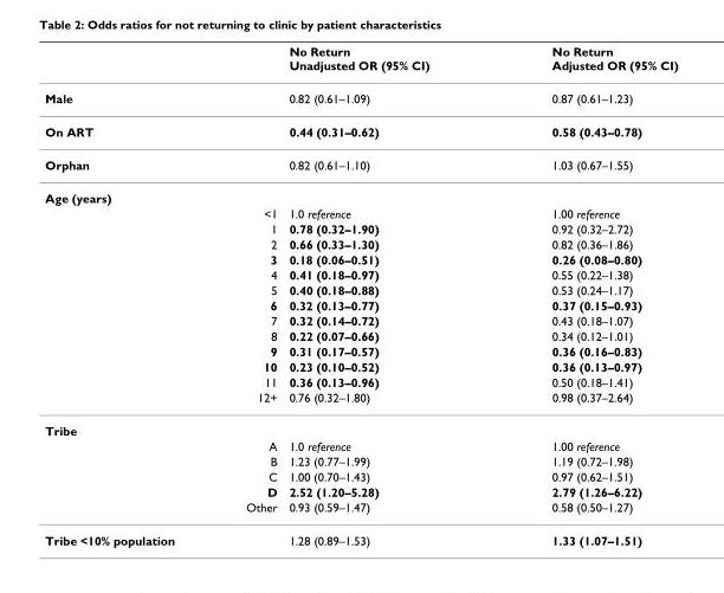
<table><thead><tr><td></td><td>No Return Unadjusted OR (95% CI)</td><td>No Return Adjusted OR (95% CI)</td></tr></thead><tbody><tr><td>Male</td><td>0.82 (0.61–1.09)</td><td>0.87 (0.61–1.23)</td></tr><tr><td>On ART</td><td>0.44 (0.31–0.62)</td><td>0.58 (0.43–0.78)</td></tr><tr><td>Orphan</td><td>0.82 (0.61–1.10)</td><td>1.03 (0.67–1.55)</td></tr><tr><td colspan="3">Age (years)</td></tr><tr><td>&lt;1</td><td>1.0 reference</td><td>1.00 reference</td></tr><tr><td>1</td><td>0.78 (0.32–1.90)</td><td>0.92 (0.32–2.72)</td></tr><tr><td>2</td><td>0.66 (0.33–1.30)</td><td>0.82 (0.36–1.86)</td></tr><tr><td>3</td><td>0.18 (0.06–0.51)</td><td>0.26 (0.08–0.80)</td></tr><tr><td>4</td><td>0.41 (0.18–0.97)</td><td>0.55 (0.22–1.38)</td></tr><tr><td>5</td><td>0.40 (0.18–0.88)</td><td>0.53 (0.24–1.17)</td></tr><tr><td>6</td><td>0.32 (0.13–0.77)</td><td>0.37 (0.15–0.93)</td></tr><tr><td>7</td><td>0.32 (0.14–0.72)</td><td>0.43 (0.18–1.07)</td></tr><tr><td>8</td><td>0.22 (0.07–0.66)</td><td>0.34 (0.12–1.01)</td></tr><tr><td>9</td><td>0.31 (0.17–0.57)</td><td>0.36 (0.16–0.83)</td></tr><tr><td>10</td><td>0.23 (0.10–0.52)</td><td>0.36 (0.13–0.97)</td></tr><tr><td>11</td><td>0.36 (0.13–0.96)</td><td>0.50 (0.18–1.41)</td></tr><tr><td>12+</td><td>0.76 (0.32–1.80)</td><td>0.98 (0.37–2.64)</td></tr><tr><td colspan="3">Tribe</td></tr><tr><td>A</td><td>1.0 reference</td><td>1.00 reference</td></tr><tr><td>B</td><td>1.23 (0.77–1.99)</td><td>1.19 (0.72–1.98)</td></tr><tr><td>C</td><td>1.00 (0.70–1.43)</td><td>0.97 (0.62–1.51)</td></tr><tr><td>D</td><td>2.52 (1.20–5.28)</td><td>2.79 (1.26–6.22)</td></tr><tr><td>Other</td><td>0.93 (0.59–1.47)</td><td>0.58 (0.50–1.27)</td></tr><tr><td>Tribe &lt;10% population</td><td>1.28 (0.89–1.53)</td><td>1.33 (1.07–1.51)</td></tr></tbody></table>